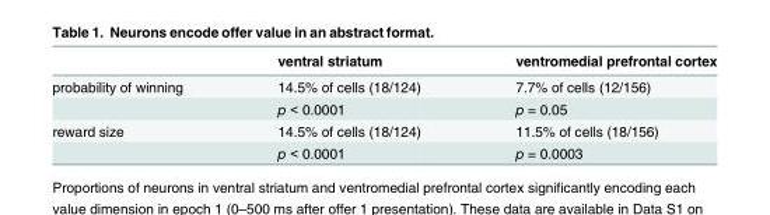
<table><thead><tr><td></td><td>ventral striatum</td><td>ventromedial prefrontal cortex</td></tr></thead><tbody><tr><td rowspan="2">probability of winning</td><td>14.5% of cells (18/124)</td><td>7.7% of cells (12/156)</td></tr><tr><td>p &lt; 0.0001</td><td>p = 0.05</td></tr><tr><td rowspan="2">reward size</td><td>14.5% of cells (18/124)</td><td>11.5% of cells (18/156)</td></tr><tr><td>p &lt; 0.0001</td><td>p = 0.0003</td></tr></tbody></table>